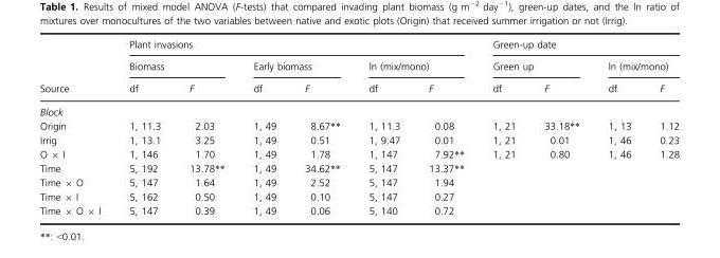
<table><thead><tr><td rowspan="3">Source</td><td colspan="6">Plant invasions</td><td colspan="4">Green-up date</td></tr><tr><td colspan="2">Biomass</td><td colspan="2">Early biomass</td><td colspan="2">ln (mix/mono)</td><td colspan="2">Green up</td><td colspan="2">ln (mix/mono)</td></tr><tr><td>df</td><td>F</td><td>df</td><td>F</td><td>df</td><td>F</td><td>df</td><td>F</td><td>df</td><td>F</td></tr></thead><tbody><tr><td colspan="11">Block</td></tr><tr><td>Origin</td><td>1, 11.3</td><td>2.03</td><td>1, 49</td><td>8.67**</td><td>1, 11.3</td><td>0.08</td><td>1, 21</td><td>33.18**</td><td>1, 13</td><td>1.12</td></tr><tr><td>Irrig</td><td>1, 13.1</td><td>3.25</td><td>1, 49</td><td>0.51</td><td>1, 9.47</td><td>0.01</td><td>1, 21</td><td>0.01</td><td>1, 46</td><td>0.23</td></tr><tr><td>O × I</td><td>1, 146</td><td>1.70</td><td>1, 49</td><td>1.78</td><td>1, 147</td><td>7.92**</td><td>1, 21</td><td>0.80</td><td>1, 46</td><td>1.28</td></tr><tr><td>Time</td><td>5, 192</td><td>13.78**</td><td>1, 49</td><td>34.62**</td><td>5, 147</td><td>13.37**</td><td></td><td></td><td></td><td></td></tr><tr><td>Time × O</td><td>5, 147</td><td>1.64</td><td>1, 49</td><td>2.52</td><td>5, 147</td><td>1.94</td><td></td><td></td><td></td><td></td></tr><tr><td>Time × I</td><td>5, 162</td><td>0.50</td><td>1, 49</td><td>0.10</td><td>5, 147</td><td>0.27</td><td></td><td></td><td></td><td></td></tr><tr><td>Time × O × I</td><td>5, 147</td><td>0.39</td><td>1, 49</td><td>0.06</td><td>5, 140</td><td>0.72</td><td></td><td></td><td></td><td></td></tr></tbody></table>